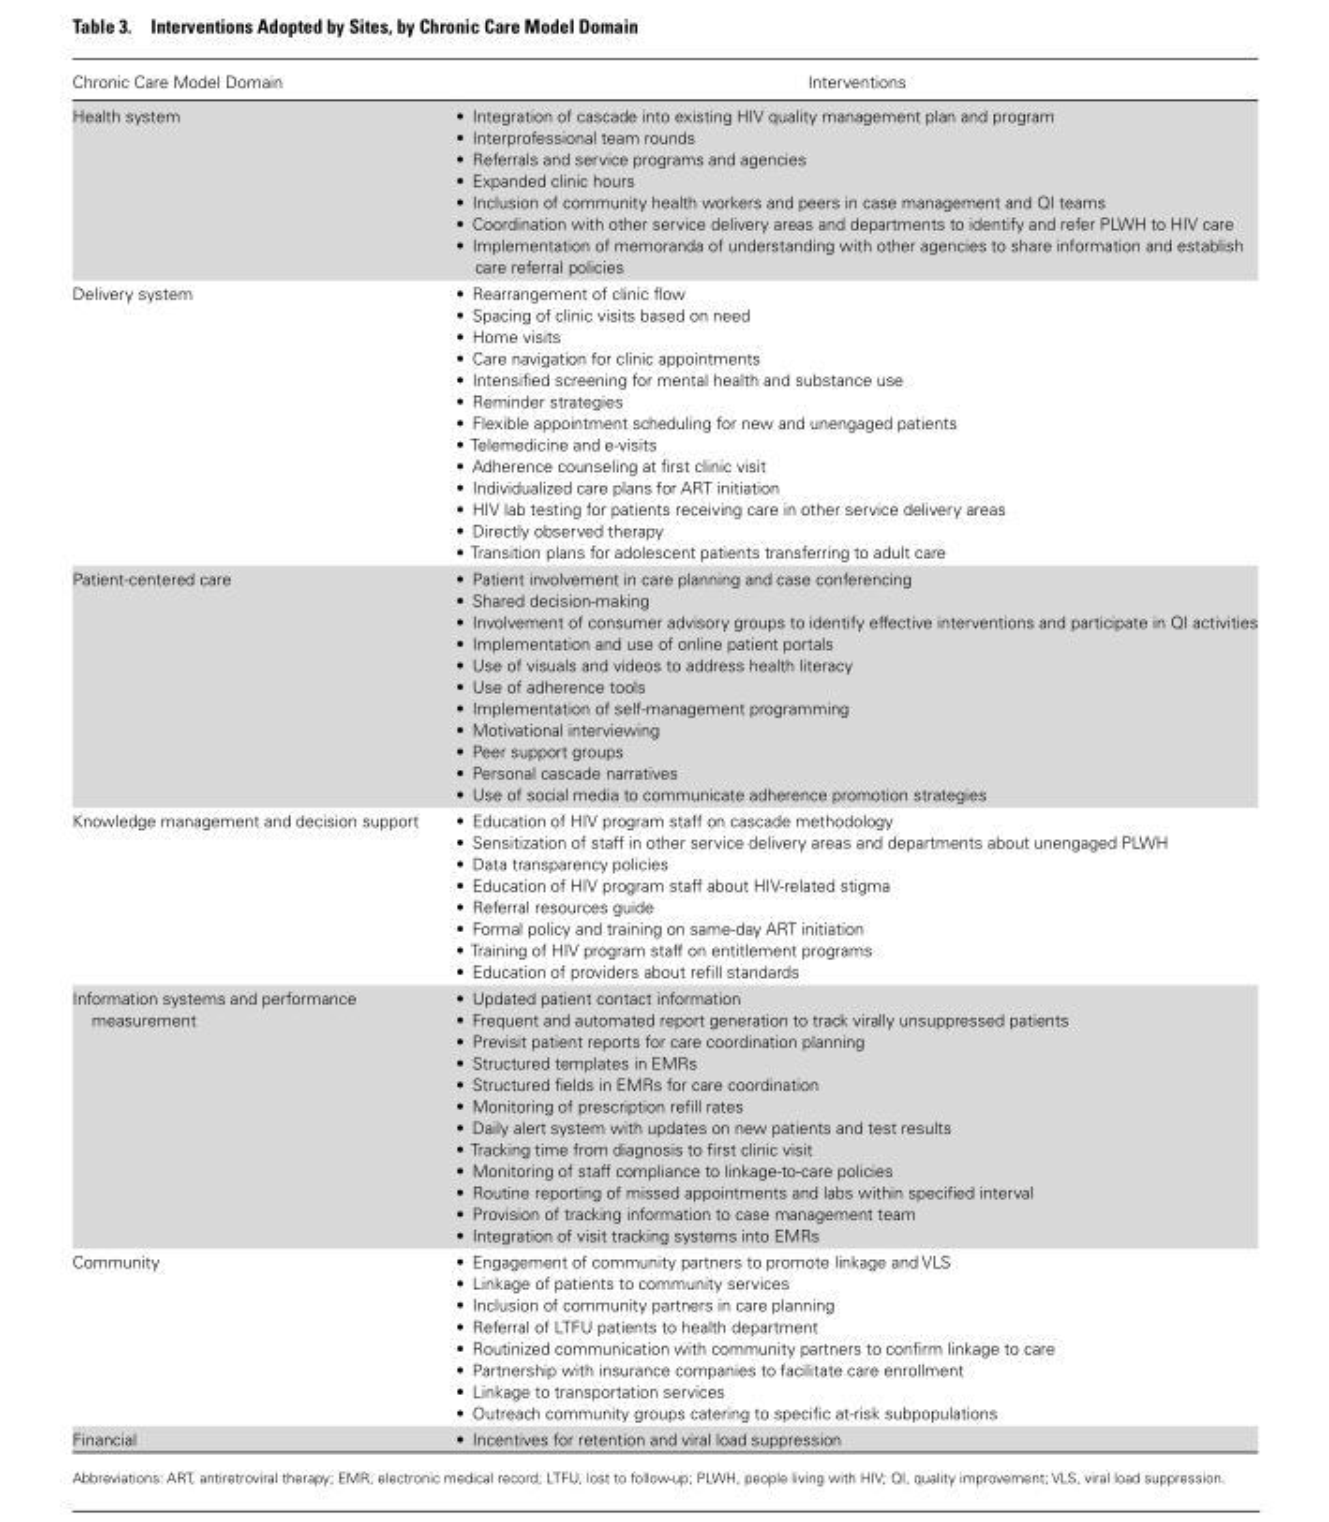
<table><thead><tr><td>Chronic Care Model Domain</td><td>Interventions</td></tr></thead><tbody><tr><td>Health system</td><td>• Integration of cascade into existing HIV quality management plan and program • Interprofessional team rounds • Referrals and service programs and agencies • Expanded clinic hours • Inclusion of community health workers and peers in case management and QI teams • Coordination with other service delivery areas and departments to identify and refer PLWH to HIV care • Implementation of memoranda of understanding with other agencies to share information and establish care referral policies</td></tr><tr><td>Delivery system</td><td>• Rearrangement of clinic flow • Spacing of clinic visits based on need • Home visits • Care navigation for clinic appointments • Intensified screening for mental health and substance use • Reminder strategies • Flexible appointment scheduling for new and unengaged patients • Telemedicine and e-visits • Adherence counseling at first clinic visit • Individualized care plans for ART initiation • HIV lab testing for patients receiving care in other service delivery areas • Directly observed therapy • Transition plans for adolescent patients transferring to adult care</td></tr><tr><td>Patient-centered care</td><td>• Patient involvement in care planning and case conferencing • Shared decision-making • Involvement of consumer advisory groups to identify effective interventions and participate in QI activities • Implementation and use of online patient portals • Use of visuals and videos to address health literacy • Use of adherence tools • Implementation of self-management programming • Motivational interviewing • Peer support groups • Personal cascade narratives • Use of social media to communicate adherence promotion strategies</td></tr><tr><td>Knowledge management and decision support</td><td>• Education of HIV program staff on cascade methodology • Sensitization of staff in other service delivery areas and departments about unengaged PLWH • Data transparency policies • Education of HIV program staff about HIV-related stigma • Referral resources guide • Formal policy and training on same-day ART initiation • Training of HIV program staff on entitlement programs • Education of providers about refill standards</td></tr><tr><td>Information systems and performance measurement</td><td>• Updated patient contact information • Frequent and automated report generation to track virally unsuppressed patients • Previsit patient reports for care coordination planning • Structured templates in EMRs • Structured fields in EMRs for care coordination • Monitoring of prescription refill rates • Daily alert system with updates on new patients and test results • Tracking time from diagnosis to first clinic visit • Monitoring of staff compliance to linkage-to-care policies • Routine reporting of missed appointments and labs within specified interval • Provision of tracking information to case management team • Integration of visit tracking systems into EMRs</td></tr><tr><td>Community</td><td>• Engagement of community partners to promote linkage and VLS • Linkage of patients to community services • Inclusion of community partners in care planning • Referral of LTFU patients to health department • Routinized communication with community partners to confirm linkage to care • Partnership with insurance companies to facilitate care enrollment • Linkage to transportation services • Outreach community groups catering to specific at-risk subpopulations</td></tr><tr><td>Financial</td><td>• Incentives for retention and viral load suppression</td></tr></tbody></table>